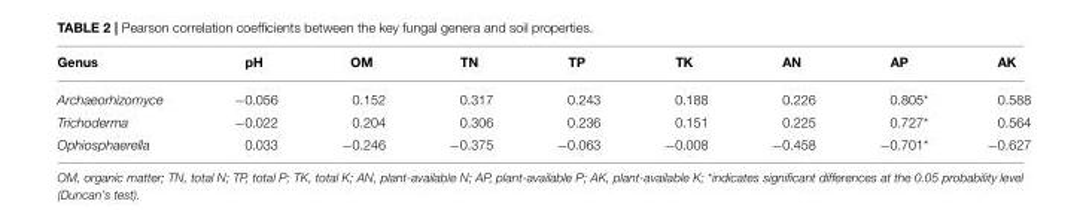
<table><thead><tr><td>Genus</td><td>pH</td><td>OM</td><td>TN</td><td>TP</td><td>TK</td><td>AN</td><td>AP</td><td>AK</td></tr></thead><tbody><tr><td>Archaeorhizomyce</td><td>−0.056</td><td>0.152</td><td>0.317</td><td>0.243</td><td>0.188</td><td>0.226</td><td>0.805*</td><td>0.588</td></tr><tr><td>Trichoderma</td><td>−0.022</td><td>0.204</td><td>0.306</td><td>0.236</td><td>0.151</td><td>0.225</td><td>0.727*</td><td>0.564</td></tr><tr><td>Ophiosphaerella</td><td>0.033</td><td>−0.246</td><td>−0.375</td><td>−0.063</td><td>−0.008</td><td>−0.458</td><td>−0.701*</td><td>−0.627</td></tr></tbody></table>